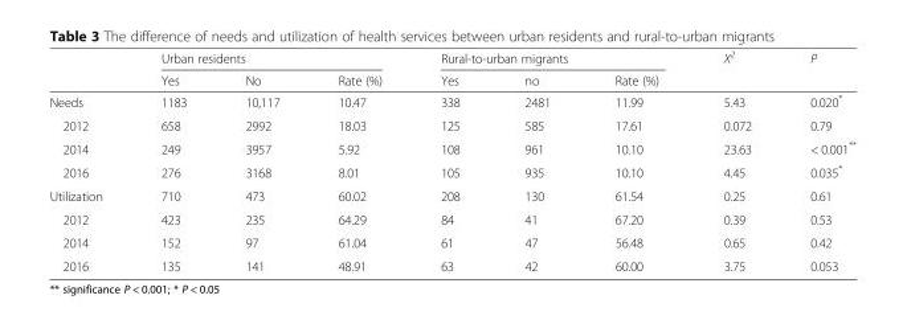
<table><thead><tr><td rowspan="2"></td><td colspan="3">Urban residents</td><td colspan="3">Rural-to-urban migrants</td><td rowspan="2">X<sup>2</sup></td><td rowspan="2">P</td></tr><tr><td>Yes</td><td>No</td><td>Rate (%)</td><td>Yes</td><td>no</td><td>Rate (%)</td></tr></thead><tbody><tr><td>Needs</td><td>1183</td><td>10,117</td><td>10.47</td><td>338</td><td>2481</td><td>11.99</td><td>5.43</td><td>0.020*</td></tr><tr><td>2012</td><td>658</td><td>2992</td><td>18.03</td><td>125</td><td>585</td><td>17.61</td><td>0.072</td><td>0.79</td></tr><tr><td>2014</td><td>249</td><td>3957</td><td>5.92</td><td>108</td><td>961</td><td>10.10</td><td>23.63</td><td>&lt; 0.001**</td></tr><tr><td>2016</td><td>276</td><td>3168</td><td>8.01</td><td>105</td><td>935</td><td>10.10</td><td>4.45</td><td>0.035*</td></tr><tr><td>Utilization</td><td>710</td><td>473</td><td>60.02</td><td>208</td><td>130</td><td>61.54</td><td>0.25</td><td>0.61</td></tr><tr><td>2012</td><td>423</td><td>235</td><td>64.29</td><td>84</td><td>41</td><td>67.20</td><td>0.39</td><td>0.53</td></tr><tr><td>2014</td><td>152</td><td>97</td><td>61.04</td><td>61</td><td>47</td><td>56.48</td><td>0.65</td><td>0.42</td></tr><tr><td>2016</td><td>135</td><td>141</td><td>48.91</td><td>63</td><td>42</td><td>60.00</td><td>3.75</td><td>0.053</td></tr></tbody></table>